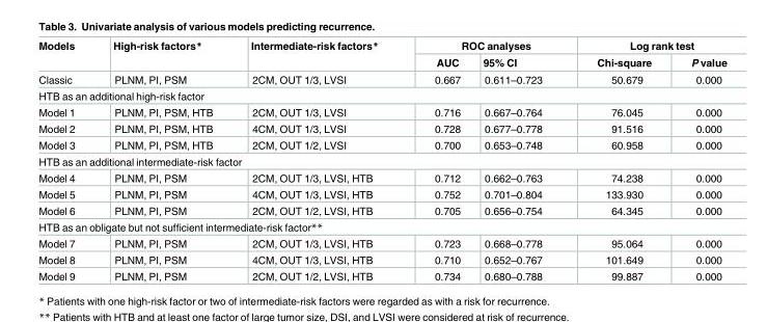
<table><thead><tr><td rowspan="2">Models</td><td rowspan="2">High-risk factors*</td><td rowspan="2">Intermediate-risk factors*</td><td colspan="2">ROC analyses</td><td colspan="2">Log rank test</td></tr><tr><td>AUC</td><td>95% CI</td><td>Chi-square</td><td>P value</td></tr></thead><tbody><tr><td>Classic</td><td>PLNM, PI, PSM</td><td>2CM, OUT 1/3, LVSI</td><td>0.667</td><td>0.611–0.723</td><td>50.679</td><td>0.000</td></tr><tr><td colspan="7">HTB as an additional high-risk factor</td></tr><tr><td>Model 1</td><td>PLNM, PI, PSM, HTB</td><td>2CM, OUT 1/3, LVSI</td><td>0.716</td><td>0.667–0.764</td><td>76.045</td><td>0.000</td></tr><tr><td>Model 2</td><td>PLNM, PI, PSM, HTB</td><td>4CM, OUT 1/3, LVSI</td><td>0.728</td><td>0.677–0.778</td><td>91.516</td><td>0.000</td></tr><tr><td>Model 3</td><td>PLNM, PI, PSM, HTB</td><td>2CM, OUT 1/2, LVSI</td><td>0.700</td><td>0.653–0.748</td><td>60.958</td><td>0.000</td></tr><tr><td colspan="7">HTB as an additional intermediate-risk factor</td></tr><tr><td>Model 4</td><td>PLNM, PI, PSM</td><td>2CM, OUT 1/3, LVSI, HTB</td><td>0.712</td><td>0.662–0.763</td><td>74.238</td><td>0.000</td></tr><tr><td>Model 5</td><td>PLNM, PI, PSM</td><td>4CM, OUT 1/3, LVSI, HTB</td><td>0.752</td><td>0.701–0.804</td><td>133.930</td><td>0.000</td></tr><tr><td>Model 6</td><td>PLNM, PI, PSM</td><td>2CM, OUT 1/2, LVSI, HTB</td><td>0.705</td><td>0.656–0.754</td><td>64.345</td><td>0.000</td></tr><tr><td colspan="7">HTB as an obligate but not sufficient intermediate-risk factor**</td></tr><tr><td>Model 7</td><td>PLNM, PI, PSM</td><td>2CM, OUT 1/3, LVSI, HTB</td><td>0.723</td><td>0.668–0.778</td><td>95.064</td><td>0.000</td></tr><tr><td>Model 8</td><td>PLNM, PI, PSM</td><td>4CM, OUT 1/3, LVSI, HTB</td><td>0.710</td><td>0.652–0.767</td><td>101.649</td><td>0.000</td></tr><tr><td>Model 9</td><td>PLNM, PI, PSM</td><td>2CM, OUT 1/2, LVSI, HTB</td><td>0.734</td><td>0.680–0.788</td><td>99.887</td><td>0.000</td></tr></tbody></table>